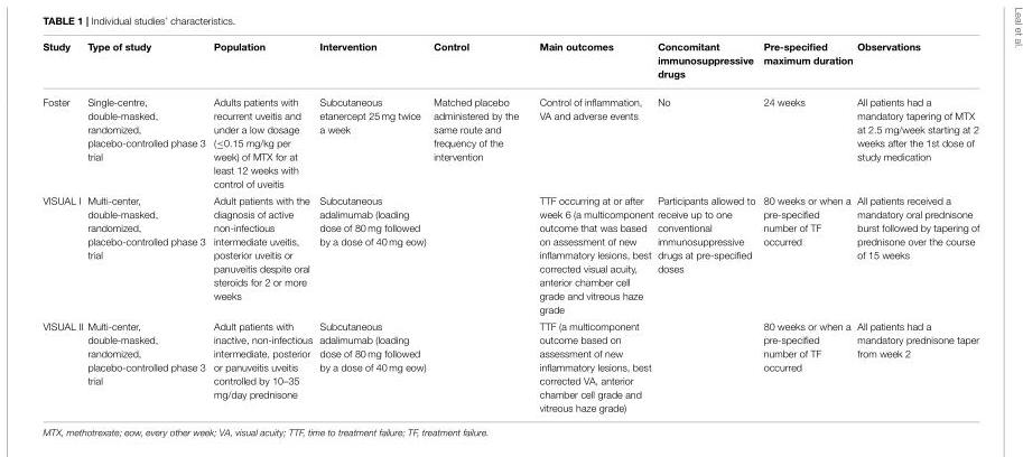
<table><thead><tr><td>Study</td><td>Type of study</td><td>Population</td><td>Intervention</td><td>Control</td><td>Main outcomes</td><td>Concomitant immunosuppressive drugs</td><td>Pre-specified maximum duration</td><td>Observations</td></tr></thead><tbody><tr><td>Foster</td><td>Single-centre, double-masked, randomized, placebo-controlled phase 3 trial</td><td>Adults patients with recurrent uveitis and under a low dosage (≤0.15 mg/kg per week) of MTX for at least 12 weeks with control of uveitis</td><td>Subcutaneous etanercept 25 mg twice a week</td><td>Matched placebo administered by the same route and frequency of the intervention</td><td>Control of inflammation, VA and adverse events</td><td>No</td><td>24 weeks</td><td>All patients had a mandatory tapering of MTX at 2.5 mg/week starting at 2 weeks after the 1st dose of study medication</td></tr><tr><td>VISUAL I</td><td>Multi-center, double-masked, randomized, placebo-controlled phase 3 trial</td><td>Adult patients with the diagnosis of active non-infectious intermediate uveitis, posterior uveitis or panuveitis despite oral steroids for 2 or more weeks</td><td>Subcutaneous adalimumab (loading dose of 80 mg followed by a dose of 40 mg eow)</td><td></td><td>TTF occurring at or after week 6 (a multicomponent outcome that was based on assessment of new inflammatory lesions, best corrected visual acuity, anterior chamber cell grade and vitreous haze grade</td><td>Participants allowed to receive up to one conventional immunosuppressive drugs at pre-specified doses</td><td>80 weeks or when a pre-specified number of TF occurred</td><td>All patients received a mandatory oral prednisone burst followed by tapering of prednisone over the course of 15 weeks</td></tr><tr><td>VISUAL II</td><td>Multi-center, double-masked, randomized, placebo-controlled phase 3 trial</td><td>Adult patients with inactive, non-infectious intermediate, posterior or panuveitis uveitis controlled by 10–35 mg/day prednisone</td><td>Subcutaneous adalimumab (loading dose of 80 mg followed by a dose of 40 mg eow)</td><td></td><td>TTF (a multicomponent outcome based on assessment of new inflammatory lesions, best corrected VA, anterior chamber cell grade and vitreous haze grade)</td><td></td><td>80 weeks or when a pre-specified number of TF occurred</td><td>All patients had a mandatory prednisone taper from week 2</td></tr></tbody></table>